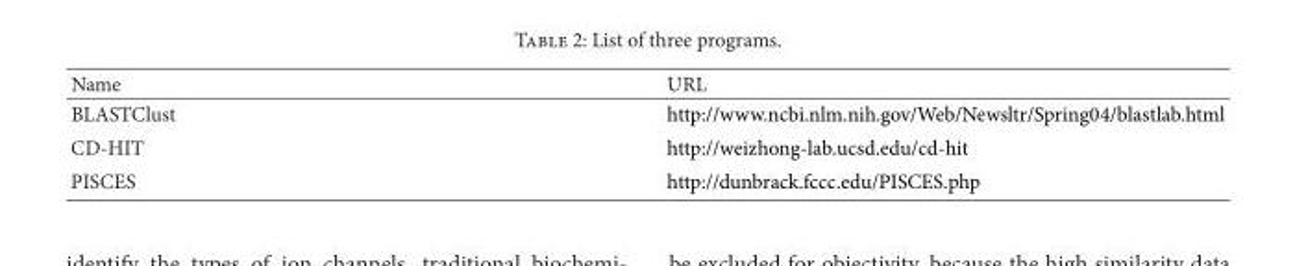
<table><thead><tr><td>Name</td><td>URL</td></tr></thead><tbody><tr><td>BLASTClust</td><td>http://www.ncbi.nlm.nih.gov/Web/Newsltr/Spring04/blastlab.html</td></tr><tr><td>CD-HIT</td><td>http://weizhong-lab.ucsd.edu/cd-hit</td></tr><tr><td>PISCES</td><td>http://dunbrack.fccc.edu/PISCES.php</td></tr></tbody></table>